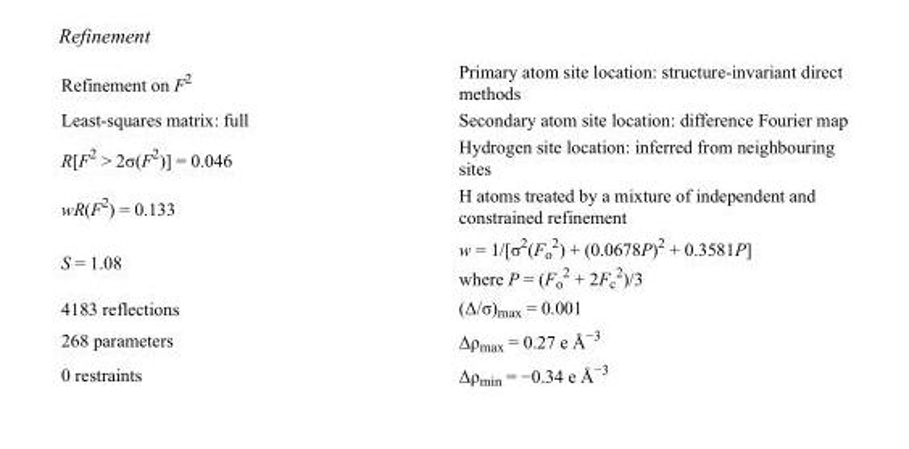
<table><tbody><tr><td>Refinement on F<sup>2</sup></td><td>Primary atom site location: structure-invariant direct methods</td></tr><tr><td>Least-squares matrix: full</td><td>Secondary atom site location: difference Fourier map</td></tr><tr><td>R[F<sup>2</sup> &gt; 2σ(F<sup>2</sup>)] = 0.046</td><td>Hydrogen site location: inferred from neighbouring sites</td></tr><tr><td>wR(F<sup>2</sup>) = 0.133</td><td>H atoms treated by a mixture of independent and constrained refinement</td></tr><tr><td>S = 1.08</td><td>w = 1/[σ<sup>2</sup>(F<sub>o</sub> <sup>2</sup>) + (0.0678P)<sup>2</sup> + 0.3581P] where P = (F<sub>o</sub> <sup>2</sup> + 2F<sub>c</sub> <sup>2</sup>)/3</td></tr><tr><td>4183 reflections</td><td>(Δ/σ)<sub>max</sub> = 0.001</td></tr><tr><td>268 parameters</td><td>Δρ<sub>max</sub> = 0.27 e Å<sup>−3</sup></td></tr><tr><td>0 restraints</td><td>Δρ<sub>min</sub> = −0.34 e Å<sup>−3</sup></td></tr></tbody></table>